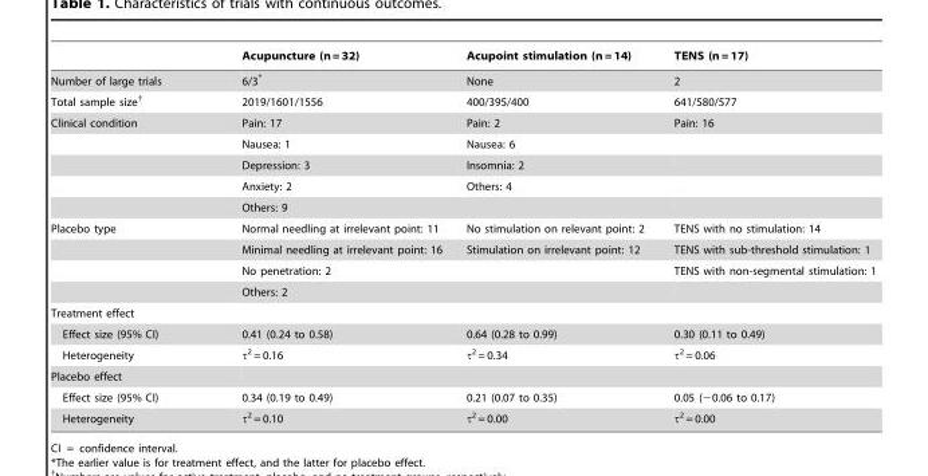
<table><thead><tr><td></td><td>Acupuncture (n = 32)</td><td>Acupoint stimulation (n = 14)</td><td>TENS (n = 17)</td></tr></thead><tbody><tr><td>Number of large trials</td><td>6/3*</td><td>None</td><td>2</td></tr><tr><td>Total sample size†</td><td>2019/1601/1556</td><td>400/395/400</td><td>641/580/577</td></tr><tr><td rowspan="5">Clinical condition</td><td>Pain: 17</td><td>Pain: 2</td><td>Pain: 16</td></tr><tr><td>Nausea: 1</td><td>Nausea: 6</td><td></td></tr><tr><td>Depression: 3</td><td>Insomnia: 2</td><td></td></tr><tr><td>Anxiety: 2</td><td>Others: 4</td><td></td></tr><tr><td>Others: 9</td><td></td><td></td></tr><tr><td rowspan="4">Placebo type</td><td>Normal needling at irrelevant point: 11</td><td>No stimulation on relevant point: 2</td><td>TENS with no stimulation: 14</td></tr><tr><td>Minimal needling at irrelevant point: 16</td><td>Stimulation on irrelevant point: 12</td><td>TENS with sub-threshold stimulation: 1</td></tr><tr><td>No penetration: 2</td><td></td><td>TENS with non-segmental stimulation: 1</td></tr><tr><td>Others: 2</td><td></td><td></td></tr><tr><td colspan="4">Treatment effect</td></tr><tr><td>Effect size (95% CI)</td><td>0.41 (0.24 to 0.58)</td><td>0.64 (0.28 to 0.99)</td><td>0.30 (0.11 to 0.49)</td></tr><tr><td>Heterogeneity</td><td>τ<sup>2</sup> = 0.16</td><td>τ<sup>2</sup> = 0.34</td><td>τ<sup>2</sup> = 0.06</td></tr><tr><td colspan="4">Placebo effect</td></tr><tr><td>Effect size (95% CI)</td><td>0.34 (0.19 to 0.49)</td><td>0.21 (0.07 to 0.35)</td><td>0.05 (−0.06 to 0.17)</td></tr><tr><td>Heterogeneity</td><td>τ<sup>2</sup> = 0.10</td><td>τ<sup>2</sup> = 0.00</td><td>τ<sup>2</sup> = 0.00</td></tr></tbody></table>